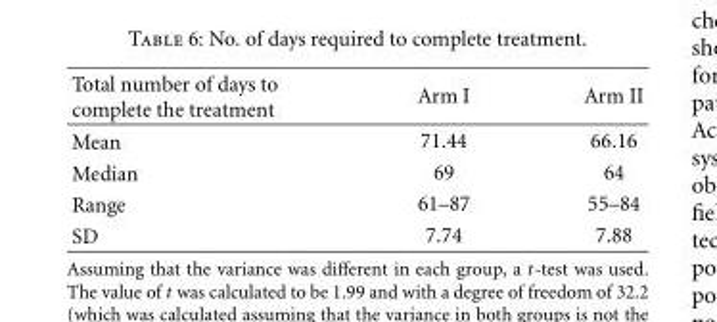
<table><thead><tr><td>Total number of days to complete the treatment</td><td>Arm I</td><td>Arm II</td></tr></thead><tbody><tr><td>Mean</td><td>71.44</td><td>66.16</td></tr><tr><td>Median</td><td>69</td><td>64</td></tr><tr><td>Range</td><td>61–87</td><td>55–84</td></tr><tr><td>SD</td><td>7.74</td><td>7.88</td></tr></tbody></table>